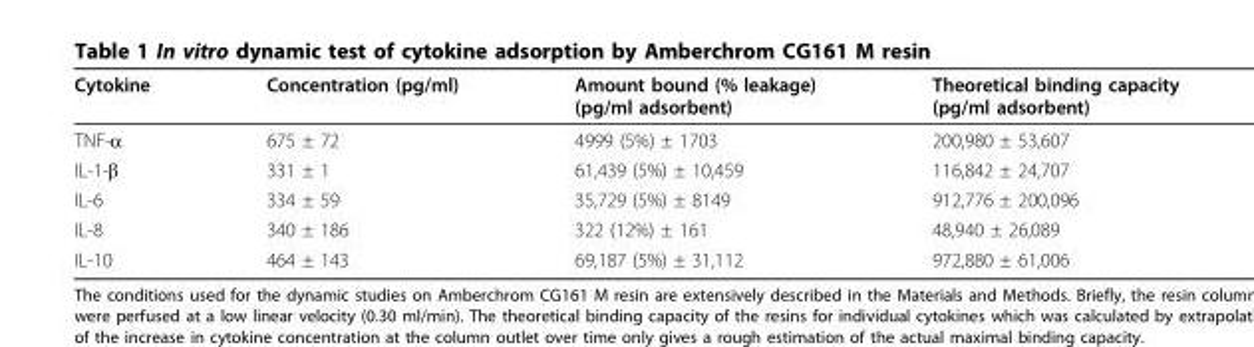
<table><thead><tr><td>Cytokine</td><td>Concentration (pg/ml)</td><td>Amount bound (% leakage) (pg/ml adsorbent)</td><td>Theoretical binding capacity (pg/ml adsorbent)</td></tr></thead><tbody><tr><td>TNF-α</td><td>675 ± 72</td><td>4999 (5%) ± 1703</td><td>200,980 ± 53,607</td></tr><tr><td>IL-1-β</td><td>331 ± 1</td><td>61,439 (5%) ± 10,459</td><td>116,842 ± 24,707</td></tr><tr><td>IL-6</td><td>334 ± 59</td><td>35,729 (5%) ± 8149</td><td>912,776 ± 200,096</td></tr><tr><td>IL-8</td><td>340 ± 186</td><td>322 (12%) ± 161</td><td>48,940 ± 26,089</td></tr><tr><td>IL-10</td><td>464 ± 143</td><td>69,187 (5%) ± 31,112</td><td>972,880 ± 61,006</td></tr></tbody></table>